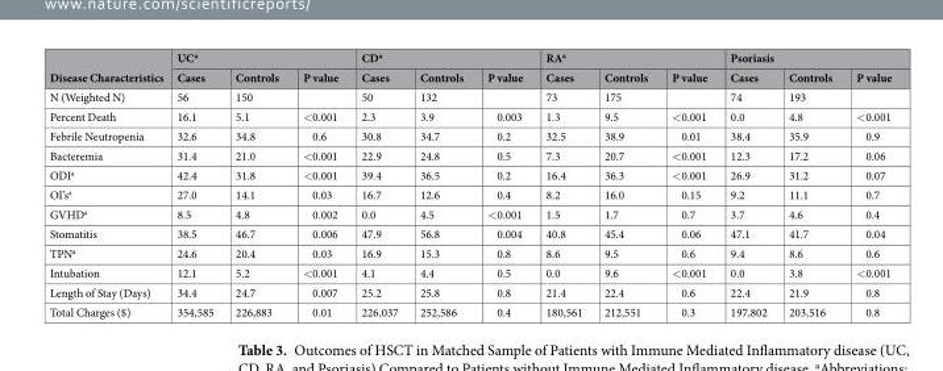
<table><thead><tr><td rowspan="2">Disease Characteristics</td><td colspan="3">UC<sup>a</sup></td><td colspan="3">CD<sup>a</sup></td><td colspan="3">RA<sup>a</sup></td><td colspan="3">Psoriasis</td></tr><tr><td>Cases</td><td>Controls</td><td>P value</td><td>Cases</td><td>Controls</td><td>P value</td><td>Cases</td><td>Controls</td><td>P value</td><td>Cases</td><td>Controls</td><td>P value</td></tr></thead><tbody><tr><td>N (Weighted N)</td><td>56</td><td>150</td><td></td><td>50</td><td>132</td><td></td><td>73</td><td>175</td><td></td><td>74</td><td>193</td><td></td></tr><tr><td>Percent Death</td><td>16.1</td><td>5.1</td><td>&lt;0.001</td><td>2.3</td><td>3.9</td><td>0.003</td><td>1.3</td><td>9.5</td><td>&lt;0.001</td><td>0.0</td><td>4.8</td><td>&lt;0.001</td></tr><tr><td>Febrile Neutropenia</td><td>32.6</td><td>34.8</td><td>0.6</td><td>30.8</td><td>34.7</td><td>0.2</td><td>32.5</td><td>38.9</td><td>0.01</td><td>38.4</td><td>35.9</td><td>0.9</td></tr><tr><td>Bacteremia</td><td>31.4</td><td>21.0</td><td>&lt;0.001</td><td>22.9</td><td>24.8</td><td>0.5</td><td>7.3</td><td>20.7</td><td>&lt;0.001</td><td>12.3</td><td>17.2</td><td>0.06</td></tr><tr><td>ODI<sup>a</sup></td><td>42.4</td><td>31.8</td><td>&lt;0.001</td><td>39.4</td><td>36.5</td><td>0.2</td><td>16.4</td><td>36.3</td><td>&lt;0.001</td><td>26.9</td><td>31.2</td><td>0.07</td></tr><tr><td>OI’s<sup>a</sup></td><td>27.0</td><td>14.1</td><td>0.03</td><td>16.7</td><td>12.6</td><td>0.4</td><td>8.2</td><td>16.0</td><td>0.15</td><td>9.2</td><td>11.1</td><td>0.7</td></tr><tr><td>GVHD<sup>a</sup></td><td>8.5</td><td>4.8</td><td>0.002</td><td>0.0</td><td>4.5</td><td>&lt;0.001</td><td>1.5</td><td>1.7</td><td>0.7</td><td>3.7</td><td>4.6</td><td>0.4</td></tr><tr><td>Stomatitis</td><td>38.5</td><td>46.7</td><td>0.006</td><td>47.9</td><td>56.8</td><td>0.004</td><td>40.8</td><td>45.4</td><td>0.06</td><td>47.1</td><td>41.7</td><td>0.04</td></tr><tr><td>TPN<sup>a</sup></td><td>24.6</td><td>20.4</td><td>0.03</td><td>16.9</td><td>15.3</td><td>0.8</td><td>8.6</td><td>9.5</td><td>0.6</td><td>9.4</td><td>8.6</td><td>0.6</td></tr><tr><td>Intubation</td><td>12.1</td><td>5.2</td><td>&lt;0.001</td><td>4.1</td><td>4.4</td><td>0.5</td><td>0.0</td><td>9.6</td><td>&lt;0.001</td><td>0.0</td><td>3.8</td><td>&lt;0.001</td></tr><tr><td>Length of Stay (Days)</td><td>34.4</td><td>24.7</td><td>0.007</td><td>25.2</td><td>25.8</td><td>0.8</td><td>21.4</td><td>22.4</td><td>0.6</td><td>22.4</td><td>21.9</td><td>0.8</td></tr><tr><td>Total Charges ($)</td><td>354,585</td><td>226,883</td><td>0.01</td><td>226,037</td><td>252,586</td><td>0.4</td><td>180,561</td><td>212,551</td><td>0.3</td><td>197,802</td><td>203,516</td><td>0.8</td></tr></tbody></table>